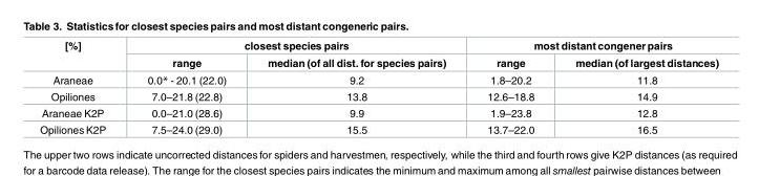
<table><thead><tr><td rowspan="2">[%]</td><td colspan="2">closest species pairs</td><td colspan="2">most distant congener pairs</td></tr><tr><td>range</td><td>median (of all dist. for species pairs)</td><td>range</td><td>median (of largest distances)</td></tr></thead><tbody><tr><td>Araneae</td><td>0.0* - 20.1 (22.0)</td><td>9.2</td><td>1.8–20.2</td><td>11.8</td></tr><tr><td>Opiliones</td><td>7.0–21.8 (22.8)</td><td>13.8</td><td>12.6–18.8</td><td>14.9</td></tr><tr><td>Araneae K2P</td><td>0.0–21.0 (28.6)</td><td>9.9</td><td>1.9–23.8</td><td>12.8</td></tr><tr><td>Opiliones K2P</td><td>7.5–24.0 (29.0)</td><td>15.5</td><td>13.7–22.0</td><td>16.5</td></tr></tbody></table>